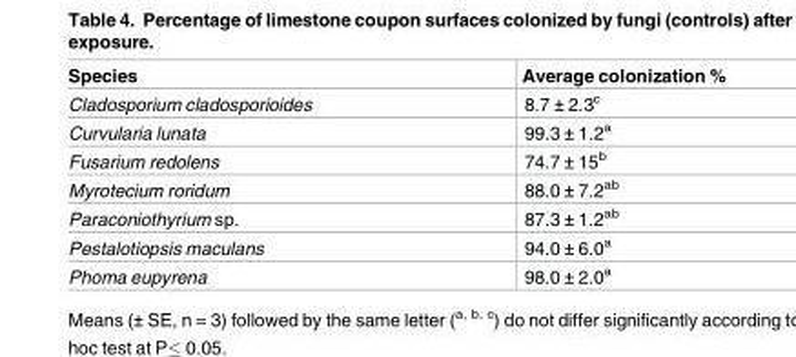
<table><thead><tr><td>Species</td><td>Average colonization %</td></tr></thead><tbody><tr><td>Cladosporium cladosporioides</td><td>8.7 ± 2.3<sup>c</sup></td></tr><tr><td>Curvularia lunata</td><td>99.3 ± 1.2<sup>a</sup></td></tr><tr><td>Fusarium redolens</td><td>74.7 ± 15<sup>b</sup></td></tr><tr><td>Myrotecium roridum</td><td>88.0 ± 7.2<sup>ab</sup></td></tr><tr><td>Paraconiothyrium sp.</td><td>87.3 ± 1.2<sup>ab</sup></td></tr><tr><td>Pestalotiopsis maculans</td><td>94.0 ± 6.0<sup>a</sup></td></tr><tr><td>Phoma eupyrena</td><td>98.0 ± 2.0<sup>a</sup></td></tr></tbody></table>